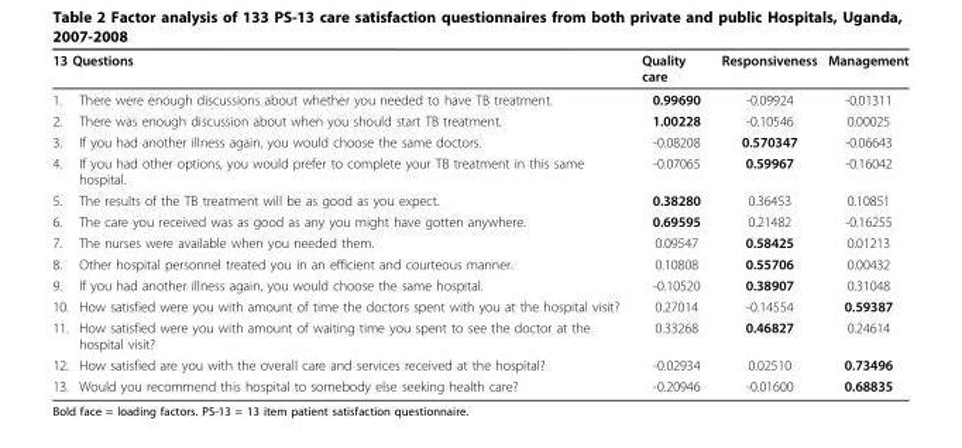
<table><thead><tr><td colspan="2">13 Questions</td><td rowspan="2">Quality care 0.99690</td><td rowspan="2">Responsiveness -0.09924</td><td rowspan="2">Management -0.01311</td></tr><tr><td>1.</td><td>There were enough discussions about whether you needed to have TB treatment.</td></tr></thead><tbody><tr><td>2.</td><td>There was enough discussion about when you should start TB treatment.</td><td>1.00228</td><td>-0.10546</td><td>0.00025</td></tr><tr><td>3.</td><td>If you had another illness again, you would choose the same doctors.</td><td>-0.08208</td><td>0.570347</td><td>-0.06643</td></tr><tr><td>4.</td><td>If you had other options, you would prefer to complete your TB treatment in this same hospital.</td><td>-0.07065</td><td>0.59967</td><td>-0.16042</td></tr><tr><td>5.</td><td>The results of the TB treatment will be as good as you expect.</td><td>0.38280</td><td>0.36453</td><td>0.10851</td></tr><tr><td>6.</td><td>The care you received was as good as any you might have gotten anywhere.</td><td>0.69595</td><td>0.21482</td><td>-0.16255</td></tr><tr><td>7.</td><td>The nurses were available when you needed them.</td><td>0.09547</td><td>0.58425</td><td>0.01213</td></tr><tr><td>8.</td><td>Other hospital personnel treated you in an efficient and courteous manner.</td><td>0.10808</td><td>0.55706</td><td>0.00432</td></tr><tr><td>9.</td><td>If you had another illness again, you would choose the same hospital.</td><td>-0.10520</td><td>0.38907</td><td>0.31048</td></tr><tr><td>10.</td><td>How satisfied were you with amount of time the doctors spent with you at the hospital visit?</td><td>0.27014</td><td>-0.14554</td><td>0.59387</td></tr><tr><td>11.</td><td>How satisfied were you with amount of waiting time you spent to see the doctor at the hospital visit?</td><td>0.33268</td><td>0.46827</td><td>0.24614</td></tr><tr><td>12.</td><td>How satisfied are you with the overall care and services received at the hospital?</td><td>-0.02934</td><td>0.02510</td><td>0.73496</td></tr><tr><td>13.</td><td>Would you recommend this hospital to somebody else seeking health care?</td><td>-0.20946</td><td>-0.01600</td><td>0.68835</td></tr></tbody></table>